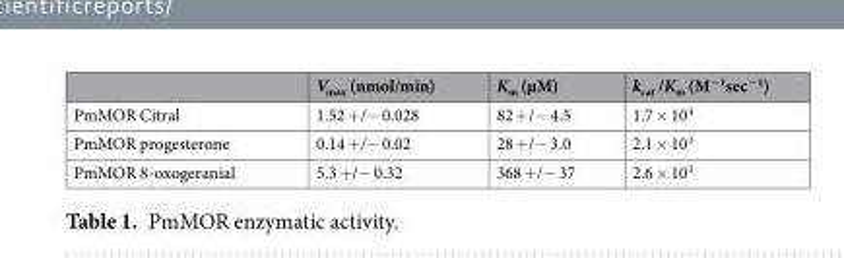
<table><thead><tr><td></td><td>V<sub>max</sub> (nmol/min)</td><td>K<sub>m</sub> (µM)</td><td>k<sub>cat</sub> /K<sub>m</sub> (M<sup>−1</sup>sec<sup>−1</sup>)</td></tr></thead><tbody><tr><td>PmMOR Citral</td><td>1.52 +/− 0.028</td><td>82 +/− 4.5</td><td>1.7 × 10<sup>4</sup></td></tr><tr><td>PmMOR progesterone</td><td>0.14 +/− 0.02</td><td>28 +/− 3.0</td><td>2.1 × 10<sup>3</sup></td></tr><tr><td>PmMOR 8-oxogeranial</td><td>5.3 +/− 0.32</td><td>368 +/− 37</td><td>2.6 × 10<sup>3</sup></td></tr></tbody></table>